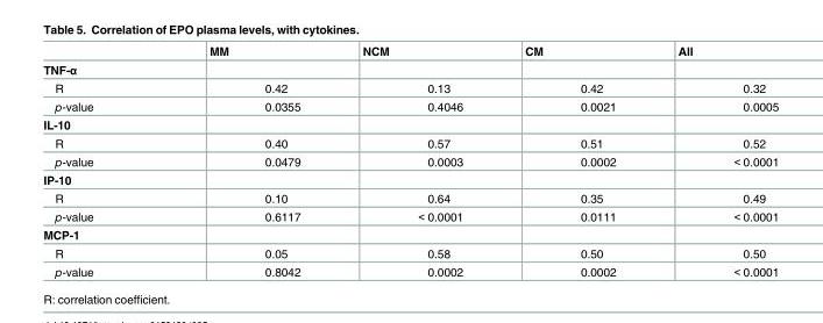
<table><thead><tr><td></td><td>MM</td><td>NCM</td><td>CM</td><td>All</td></tr></thead><tbody><tr><td colspan="5">TNF-α</td></tr><tr><td>R</td><td>0.42</td><td>0.13</td><td>0.42</td><td>0.32</td></tr><tr><td>p-value</td><td>0.0355</td><td>0.4046</td><td>0.0021</td><td>0.0005</td></tr><tr><td colspan="5">IL-10</td></tr><tr><td>R</td><td>0.40</td><td>0.57</td><td>0.51</td><td>0.52</td></tr><tr><td>p-value</td><td>0.0479</td><td>0.0003</td><td>0.0002</td><td>&lt; 0.0001</td></tr><tr><td colspan="5">IP-10</td></tr><tr><td>R</td><td>0.10</td><td>0.64</td><td>0.35</td><td>0.49</td></tr><tr><td>p-value</td><td>0.6117</td><td>&lt; 0.0001</td><td>0.0111</td><td>&lt; 0.0001</td></tr><tr><td colspan="5">MCP-1</td></tr><tr><td>R</td><td>0.05</td><td>0.58</td><td>0.50</td><td>0.50</td></tr><tr><td>p-value</td><td>0.8042</td><td>0.0002</td><td>0.0002</td><td>&lt; 0.0001</td></tr></tbody></table>